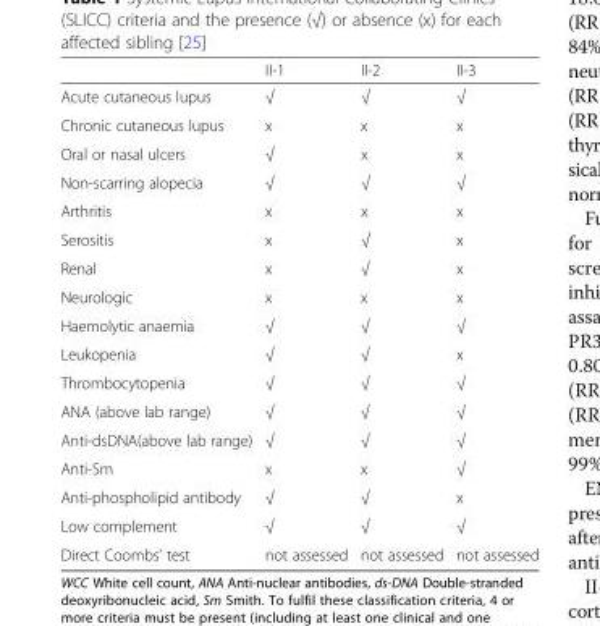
<table><thead><tr><td></td><td>II-1</td><td>II-2</td><td>II-3</td></tr></thead><tbody><tr><td>Acute cutaneous lupus</td><td>√</td><td>√</td><td>√</td></tr><tr><td>Chronic cutaneous lupus</td><td>x</td><td>x</td><td>x</td></tr><tr><td>Oral or nasal ulcers</td><td>√</td><td>x</td><td>x</td></tr><tr><td>Non-scarring alopecia</td><td>√</td><td>√</td><td>√</td></tr><tr><td>Arthritis</td><td>x</td><td>x</td><td>x</td></tr><tr><td>Serositis</td><td>x</td><td>√</td><td>x</td></tr><tr><td>Renal</td><td>x</td><td>√</td><td>x</td></tr><tr><td>Neurologic</td><td>x</td><td>x</td><td>x</td></tr><tr><td>Haemolytic anaemia</td><td>√</td><td>√</td><td>√</td></tr><tr><td>Leukopenia</td><td>√</td><td>√</td><td>x</td></tr><tr><td>Thrombocytopenia</td><td>√</td><td>√</td><td>√</td></tr><tr><td>ANA (above lab range)</td><td>√</td><td>√</td><td>√</td></tr><tr><td>Anti-dsDNA(above lab range)</td><td>√</td><td>√</td><td>√</td></tr><tr><td>Anti-Sm</td><td>x</td><td>x</td><td>√</td></tr><tr><td>Anti-phospholipid antibody</td><td>√</td><td>√</td><td>x</td></tr><tr><td>Low complement</td><td>√</td><td>√</td><td>√</td></tr><tr><td>Direct Coombs’ test</td><td>not assessed</td><td>not assessed</td><td>not assessed</td></tr></tbody></table>